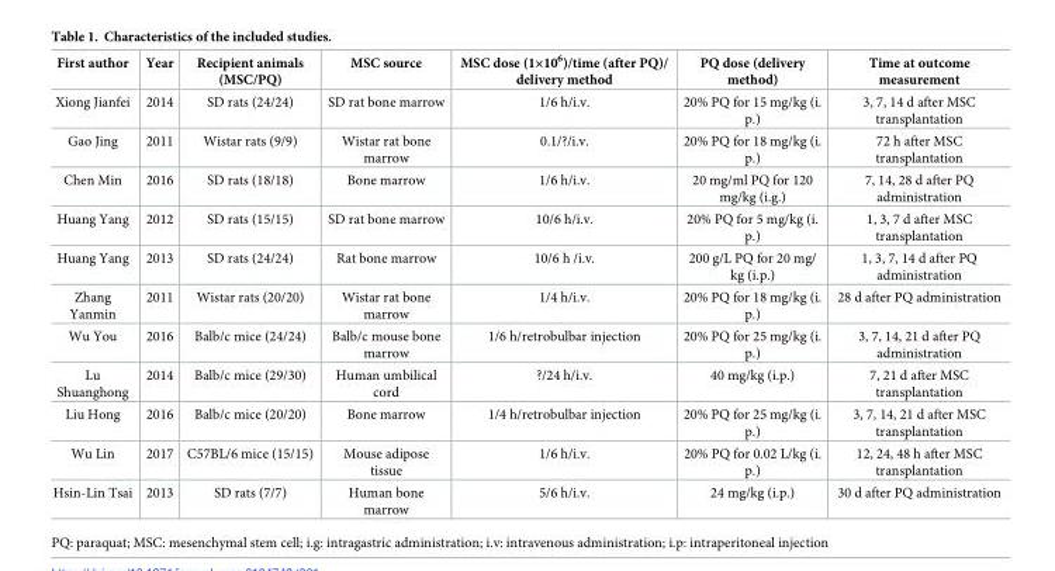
<table><thead><tr><td>First author</td><td>Year</td><td>Recipient animals (MSC/PQ)</td><td>MSC source</td><td>MSC dose (1×10<sup>6</sup>)/time (after PQ)/ delivery method</td><td>PQ dose (delivery method)</td><td>Time at outcome measurement</td></tr></thead><tbody><tr><td>Xiong Jianfei</td><td>2014</td><td>SD rats (24/24)</td><td>SD rat bone marrow</td><td>1/6 h/i.v.</td><td>20% PQ for 15 mg/kg (i. p.)</td><td>3, 7, 14 d after MSC transplantation</td></tr><tr><td>Gao Jing</td><td>2011</td><td>Wistar rats (9/9)</td><td>Wistar rat bone marrow</td><td>0.1/?/i.v.</td><td>20% PQ for 18 mg/kg (i. p.)</td><td>72 h after MSC transplantation</td></tr><tr><td>Chen Min</td><td>2016</td><td>SD rats (18/18)</td><td>Bone marrow</td><td>1/6 h/i.v.</td><td>20 mg/ml PQ for 120 mg/kg (i.g.)</td><td>7, 14, 28 d after PQ administration</td></tr><tr><td>Huang Yang</td><td>2012</td><td>SD rats (15/15)</td><td>SD rat bone marrow</td><td>10/6 h/i.v.</td><td>20% PQ for 5 mg/kg (i. p.)</td><td>1, 3, 7 d after MSC transplantation</td></tr><tr><td>Huang Yang</td><td>2013</td><td>SD rats (24/24)</td><td>Rat bone marrow</td><td>10/6 h /i.v.</td><td>200 g/L PQ for 20 mg/ kg (i.p.)</td><td>1, 3, 7, 14 d after PQ administration</td></tr><tr><td>Zhang Yanmin</td><td>2011</td><td>Wistar rats (20/20)</td><td>Wistar rat bone marrow</td><td>1/4 h/i.v.</td><td>20% PQ for 18 mg/kg (i. p.)</td><td>28 d after PQ administration</td></tr><tr><td>Wu You</td><td>2016</td><td>Balb/c mice (24/24)</td><td>Balb/c mouse bone marrow</td><td>1/6 h/retrobulbar injection</td><td>20% PQ for 25 mg/kg (i. p.)</td><td>3, 7, 14, 21 d after PQ administration</td></tr><tr><td>Lu Shuanghong</td><td>2014</td><td>Balb/c mice (29/30)</td><td>Human umbilical cord</td><td>?/24 h/i.v.</td><td>40 mg/kg (i.p.)</td><td>7, 21 d after MSC transplantation</td></tr><tr><td>Liu Hong</td><td>2016</td><td>Balb/c mice (20/20)</td><td>Bone marrow</td><td>1/4 h/retrobulbar injection</td><td>20% PQ for 25 mg/kg (i. p.)</td><td>3, 7, 14, 21 d after MSC transplantation</td></tr><tr><td>Wu Lin</td><td>2017</td><td>C57BL/6 mice (15/15)</td><td>Mouse adipose tissue</td><td>1/6 h/i.v.</td><td>20% PQ for 0.02 L/kg (i. p.)</td><td>12, 24, 48 h after MSC transplantation</td></tr><tr><td>Hsin-Lin Tsai</td><td>2013</td><td>SD rats (7/7)</td><td>Human bone marrow</td><td>5/6 h/i.v.</td><td>24 mg/kg (i.p.)</td><td>30 d after PQ administration</td></tr></tbody></table>